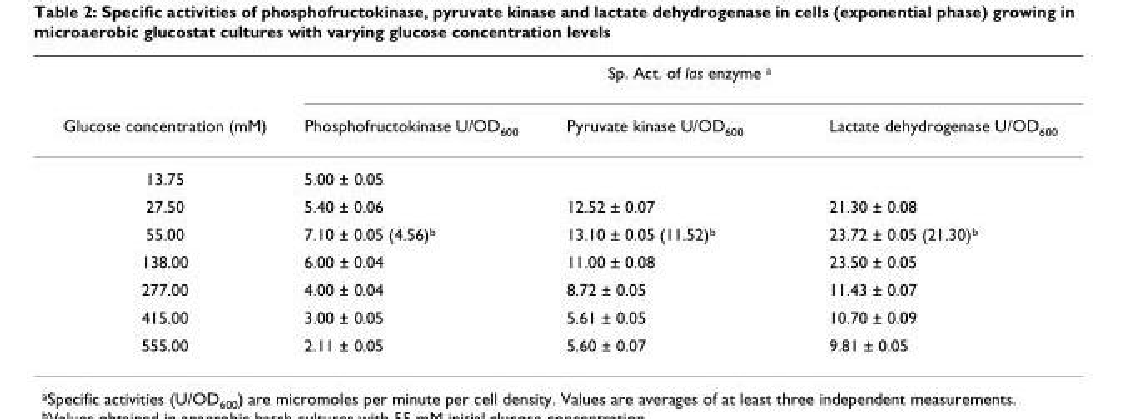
<table><thead><tr><td rowspan="2">Glucose concentration (mM)</td><td colspan="3">Sp. Act. of las enzyme <sup>a</sup></td></tr><tr><td>Phosphofructokinase U/OD<sub>600</sub></td><td>Pyruvate kinase U/OD<sub>600</sub></td><td>Lactate dehydrogenase U/OD<sub>600</sub></td></tr></thead><tbody><tr><td>13.75</td><td>5.00 ± 0.05</td><td></td><td></td></tr><tr><td>27.50</td><td>5.40 ± 0.06</td><td>12.52 ± 0.07</td><td>21.30 ± 0.08</td></tr><tr><td>55.00</td><td>7.10 ± 0.05 (4.56)<sup>b</sup></td><td>13.10 ± 0.05 (11.52)<sup>b</sup></td><td>23.72 ± 0.05 (21.30)<sup>b</sup></td></tr><tr><td>138.00</td><td>6.00 ± 0.04</td><td>11.00 ± 0.08</td><td>23.50 ± 0.05</td></tr><tr><td>277.00</td><td>4.00 ± 0.04</td><td>8.72 ± 0.05</td><td>11.43 ± 0.07</td></tr><tr><td>415.00</td><td>3.00 ± 0.05</td><td>5.61 ± 0.05</td><td>10.70 ± 0.09</td></tr><tr><td>555.00</td><td>2.11 ± 0.05</td><td>5.60 ± 0.07</td><td>9.81 ± 0.05</td></tr></tbody></table>